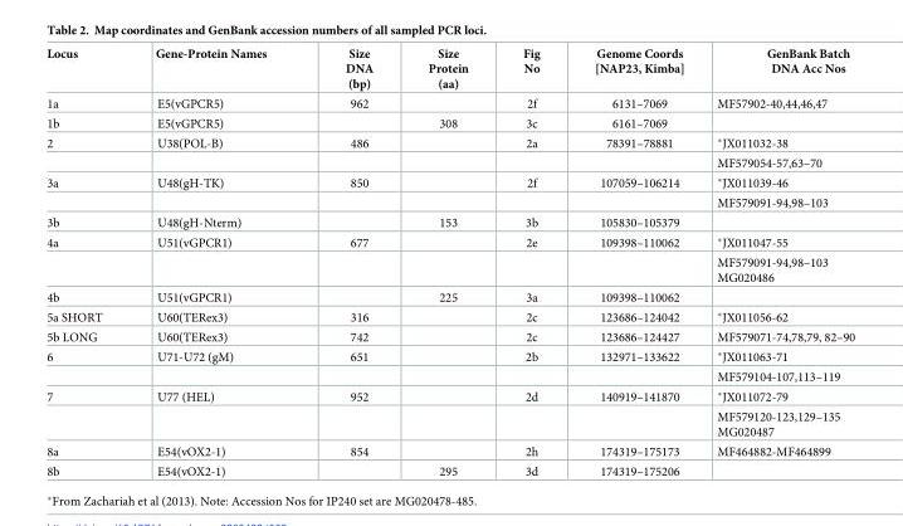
<table><thead><tr><td>Locus</td><td>Gene-Protein Names</td><td>Size DNA (bp)</td><td>Size Protein (aa)</td><td>Fig No</td><td>Genome Coords [NAP23, Kimba]</td><td>GenBank Batch DNA Acc Nos</td></tr></thead><tbody><tr><td>1a</td><td>E5(vGPCR5)</td><td>962</td><td></td><td>2f</td><td>6131–7069</td><td>MF57902-40,44,46,47</td></tr><tr><td>1b</td><td>E5(vGPCR5)</td><td></td><td>308</td><td>3c</td><td>6161–7069</td><td></td></tr><tr><td rowspan="2">2</td><td>U38(POL-B)</td><td>486</td><td></td><td>2a</td><td>78391–78881</td><td>*JX011032-38</td></tr><tr><td></td><td></td><td></td><td></td><td></td><td>MF579054-57,63–70</td></tr><tr><td rowspan="2">3a</td><td>U48(gH-TK)</td><td>850</td><td></td><td>2f</td><td>107059–106214</td><td>*JX011039-46</td></tr><tr><td></td><td></td><td></td><td></td><td></td><td>MF579091-94,98–103</td></tr><tr><td>3b</td><td>U48(gH-Nterm)</td><td></td><td>153</td><td>3b</td><td>105830–105379</td><td></td></tr><tr><td rowspan="2">4a</td><td>U51(vGPCR1)</td><td>677</td><td></td><td>2e</td><td>109398–110062</td><td>*JX011047-55</td></tr><tr><td></td><td></td><td></td><td></td><td></td><td>MF579091-94,98–103 MG020486</td></tr><tr><td>4b</td><td>U51(vGPCR1)</td><td></td><td>225</td><td>3a</td><td>109398–110062</td><td></td></tr><tr><td>5a SHORT</td><td>U60(TERex3)</td><td>316</td><td></td><td>2c</td><td>123686–124042</td><td>*JX011056-62</td></tr><tr><td>5b LONG</td><td>U60(TERex3)</td><td>742</td><td></td><td>2c</td><td>123686–124427</td><td>MF579071-74,78,79, 82–90</td></tr><tr><td rowspan="2">6</td><td>U71-U72 (gM)</td><td>651</td><td></td><td>2b</td><td>132971–133622</td><td>*JX011063-71</td></tr><tr><td></td><td></td><td></td><td></td><td></td><td>MF579104-107,113–119</td></tr><tr><td rowspan="2">7</td><td>U77 (HEL)</td><td>952</td><td></td><td>2d</td><td>140919–141870</td><td>*JX011072-79</td></tr><tr><td></td><td></td><td></td><td></td><td></td><td>MF579120-123,129–135 MG020487</td></tr><tr><td>8a</td><td>E54(vOX2-1)</td><td>854</td><td></td><td>2h</td><td>174319–175173</td><td>MF464882-MF464899</td></tr><tr><td>8b</td><td>E54(vOX2-1)</td><td></td><td>295</td><td>3d</td><td>174319–175206</td><td></td></tr></tbody></table>